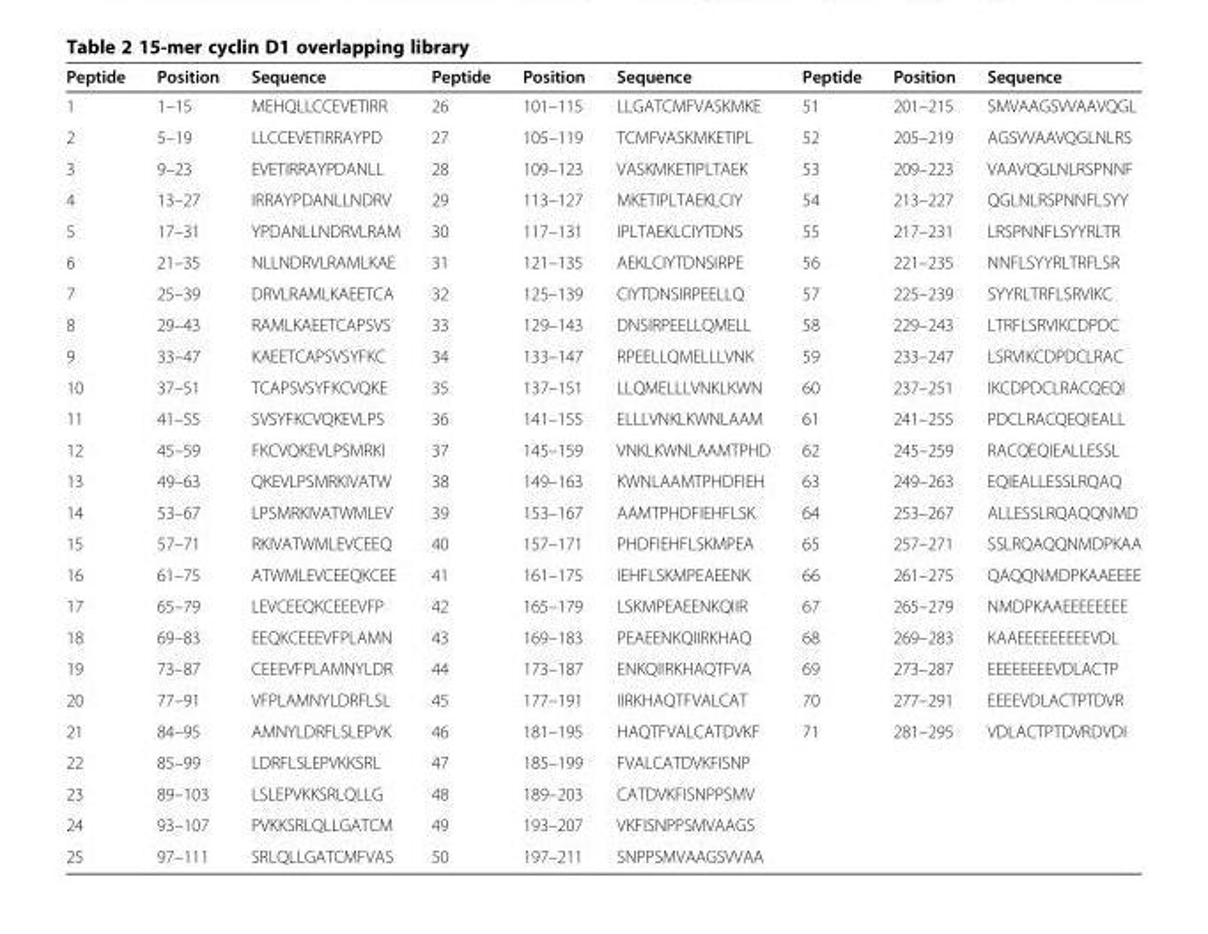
<table><thead><tr><td>Peptide</td><td>Position</td><td>Sequence</td><td>Peptide</td><td>Position</td><td>Sequence</td><td>Peptide</td><td>Position</td><td>Sequence</td></tr></thead><tbody><tr><td>1</td><td>1–15</td><td>MEHQLLCCEVETIRR</td><td>26</td><td>101–115</td><td>LLGATCMFVASKMKE</td><td>51</td><td>201–215</td><td>SMVAAGSVVAAVQGL</td></tr><tr><td>2</td><td>5–19</td><td>LLCCEVETIRRAYPD</td><td>27</td><td>105–119</td><td>TCMFVASKMKETIPL</td><td>52</td><td>205–219</td><td>AGSVVAAVQGLNLRS</td></tr><tr><td>3</td><td>9–23</td><td>EVETIRRAYPDANLL</td><td>28</td><td>109–123</td><td>VASKMKETIPLTAEK</td><td>53</td><td>209–223</td><td>VAAVQGLNLRSPNNF</td></tr><tr><td>4</td><td>13–27</td><td>IRRAYPDANLLNDRV</td><td>29</td><td>113–127</td><td>MKETIPLTAEKLCIY</td><td>54</td><td>213–227</td><td>QGLNLRSPNNFLSYY</td></tr><tr><td>5</td><td>17–31</td><td>YPDANLLNDRVLRAM</td><td>30</td><td>117–131</td><td>IPLTAEKLCIYTDNS</td><td>55</td><td>217–231</td><td>LRSPNNFLSYYRLTR</td></tr><tr><td>6</td><td>21–35</td><td>NLLNDRVLRAMLKAE</td><td>31</td><td>121–135</td><td>AEKLCIYTDNSIRPE</td><td>56</td><td>221–235</td><td>NNFLSYYRLTRFLSR</td></tr><tr><td>7</td><td>25–39</td><td>DRVLRAMLKAEETCA</td><td>32</td><td>125–139</td><td>CIYTDNSIRPEELLQ</td><td>57</td><td>225–239</td><td>SYYRLTRFLSRVIKC</td></tr><tr><td>8</td><td>29–43</td><td>RAMLKAEETCAPSVS</td><td>33</td><td>129–143</td><td>DNSIRPEELLQMELL</td><td>58</td><td>229–243</td><td>LTRFLSRVIKCDPDC</td></tr><tr><td>9</td><td>33–47</td><td>KAEETCAPSVSYFKC</td><td>34</td><td>133–147</td><td>RPEELLQMELLLVNK</td><td>59</td><td>233–247</td><td>LSRVIKCDPDCLRAC</td></tr><tr><td>10</td><td>37–51</td><td>TCAPSVSYFKCVQKE</td><td>35</td><td>137–151</td><td>LLQMELLLVNKLKWN</td><td>60</td><td>237–251</td><td>IKCDPDCLRACQEQI</td></tr><tr><td>11</td><td>41–55</td><td>SVSYFKCVQKEVLPS</td><td>36</td><td>141–155</td><td>ELLLVNKLKWNLAAM</td><td>61</td><td>241–255</td><td>PDCLRACQEQIEALL</td></tr><tr><td>12</td><td>45–59</td><td>FKCVQKEVLPSMRKI</td><td>37</td><td>145–159</td><td>VNKLKWNLAAMTPHD</td><td>62</td><td>245–259</td><td>RACQEQIEALLESSL</td></tr><tr><td>13</td><td>49–63</td><td>QKEVLPSMRKIVATW</td><td>38</td><td>149–163</td><td>KWNLAAMTPHDFIEH</td><td>63</td><td>249–263</td><td>EQIEALLESSLRQAQ</td></tr><tr><td>14</td><td>53–67</td><td>LPSMRKIVATWMLEV</td><td>39</td><td>153–167</td><td>AAMTPHDFIEHFLSK</td><td>64</td><td>253–267</td><td>ALLESSLRQAQQNMD</td></tr><tr><td>15</td><td>57–71</td><td>RKIVATWMLEVCEEQ</td><td>40</td><td>157–171</td><td>PHDFIEHFLSKMPEA</td><td>65</td><td>257–271</td><td>SSLRQAQQNMDPKAA</td></tr><tr><td>16</td><td>61–75</td><td>ATWMLEVCEEQKCEE</td><td>41</td><td>161–175</td><td>IEHFLSKMPEAEENK</td><td>66</td><td>261–275</td><td>QAQQNMDPKAAEEEE</td></tr><tr><td>17</td><td>65–79</td><td>LEVCEEQKCEEEVFP</td><td>42</td><td>165–179</td><td>LSKMPEAEENKQIIR</td><td>67</td><td>265–279</td><td>NMDPKAAEEEEEEEE</td></tr><tr><td>18</td><td>69–83</td><td>EEQKCEEEVFPLAMN</td><td>43</td><td>169–183</td><td>PEAEENKQIIRKHAQ</td><td>68</td><td>269–283</td><td>KAAEEEEEEEEEVDL</td></tr><tr><td>19</td><td>73–87</td><td>CEEEVFPLAMNYLDR</td><td>44</td><td>173–187</td><td>ENKQIIRKHAQTFVA</td><td>69</td><td>273–287</td><td>EEEEEEEEVDLACTP</td></tr><tr><td>20</td><td>77–91</td><td>VFPLAMNYLDRFLSL</td><td>45</td><td>177–191</td><td>IIRKHAQTFVALCAT</td><td>70</td><td>277–291</td><td>EEEEVDLACTPTDVR</td></tr><tr><td>21</td><td>84–95</td><td>AMNYLDRFLSLEPVK</td><td>46</td><td>181–195</td><td>HAQTFVALCATDVKF</td><td rowspan="5">71</td><td rowspan="5">281–295</td><td rowspan="5">VDLACTPTDVRDVDI</td></tr><tr><td>22</td><td>85–99</td><td>LDRFLSLEPVKKSRL</td><td>47</td><td>185–199</td><td>FVALCATDVKFISNP</td></tr><tr><td>23</td><td>89–103</td><td>LSLEPVKKSRLQLLG</td><td>48</td><td>189–203</td><td>CATDVKFISNPPSMV</td></tr><tr><td>24</td><td>93–107</td><td>PVKKSRLQLLGATCM</td><td>49</td><td>193–207</td><td>VKFISNPPSMVAAGS</td></tr><tr><td>25</td><td>97–111</td><td>SRLQLLGATCMFVAS</td><td>50</td><td>197–211</td><td>SNPPSMVAAGSVVAA</td></tr></tbody></table>